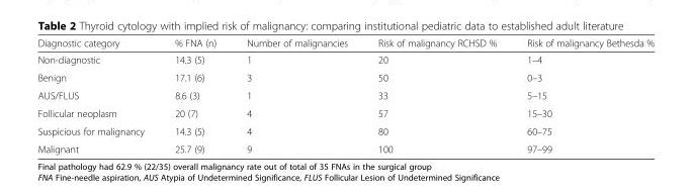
<table><thead><tr><td>Diagnostic category</td><td>% FNA (n)</td><td>Number of malignancies</td><td>Risk of malignancy RCHSD %</td><td>Risk of malignancy Bethesda %</td></tr></thead><tbody><tr><td>Non-diagnostic</td><td>14.3 (5)</td><td>1</td><td>20</td><td>1–4</td></tr><tr><td>Benign</td><td>17.1 (6)</td><td>3</td><td>50</td><td>0–3</td></tr><tr><td>AUS/FLUS</td><td>8.6 (3)</td><td>1</td><td>33</td><td>5–15</td></tr><tr><td>Follicular neoplasm</td><td>20 (7)</td><td>4</td><td>57</td><td>15–30</td></tr><tr><td>Suspicious for malignancy</td><td>14.3 (5)</td><td>4</td><td>80</td><td>60–75</td></tr><tr><td>Malignant</td><td>25.7 (9)</td><td>9</td><td>100</td><td>97–99</td></tr></tbody></table>